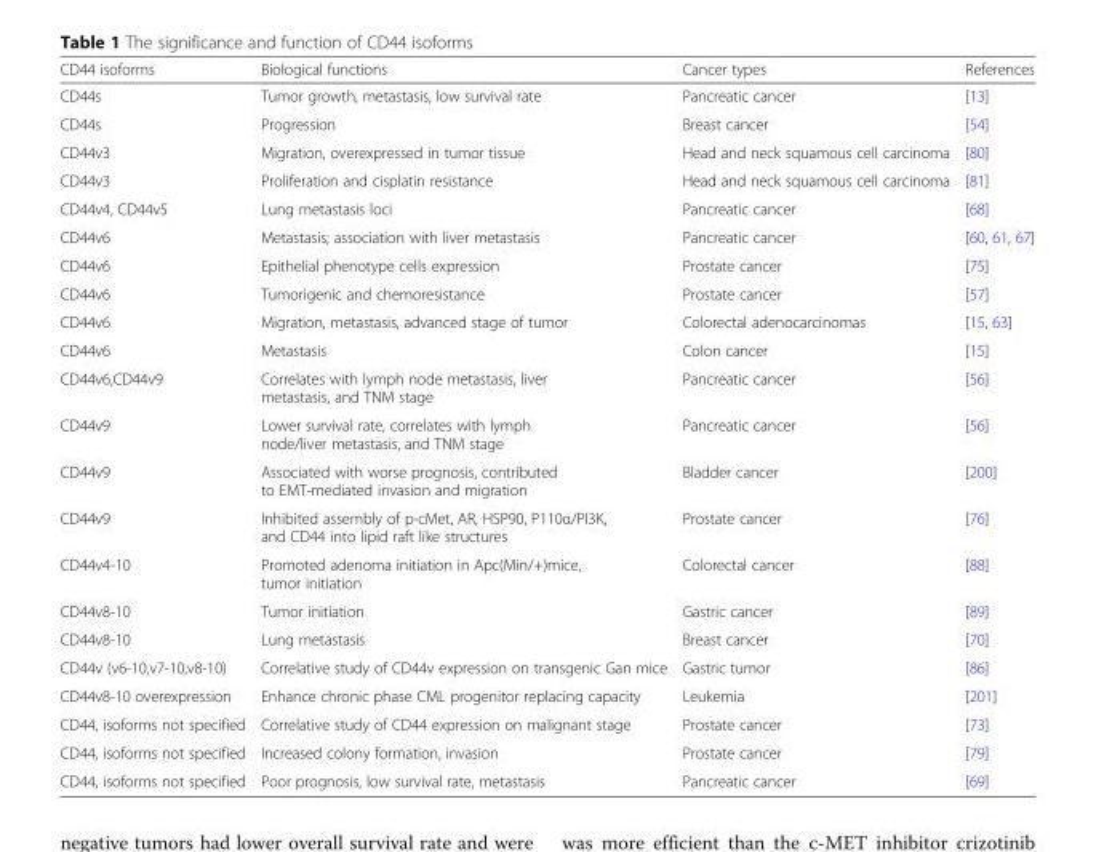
<table><thead><tr><td>CD44 isoforms</td><td>Biological functions</td><td>Cancer types</td><td>References</td></tr></thead><tbody><tr><td>CD44s</td><td>Tumor growth, metastasis, low survival rate</td><td>Pancreatic cancer</td><td>[13]</td></tr><tr><td>CD44s</td><td>Progression</td><td>Breast cancer</td><td>[54]</td></tr><tr><td>CD44v3</td><td>Migration, overexpressed in tumor tissue</td><td>Head and neck squamous cell carcinoma</td><td>[80]</td></tr><tr><td>CD44v3</td><td>Proliferation and cisplatin resistance</td><td>Head and neck squamous cell carcinoma</td><td>[81]</td></tr><tr><td>CD44v4, CD44v5</td><td>Lung metastasis loci</td><td>Pancreatic cancer</td><td>[68]</td></tr><tr><td>CD44v6</td><td>Metastasis; association with liver metastasis</td><td>Pancreatic cancer</td><td>[60, 61, 67]</td></tr><tr><td>CD44v6</td><td>Epithelial phenotype cells expression</td><td>Prostate cancer</td><td>[75]</td></tr><tr><td>CD44v6</td><td>Tumorigenic and chemoresistance</td><td>Prostate cancer</td><td>[57]</td></tr><tr><td>CD44v6</td><td>Migration, metastasis, advanced stage of tumor</td><td>Colorectal adenocarcinomas</td><td>[15, 63]</td></tr><tr><td>CD44v6</td><td>Metastasis</td><td>Colon cancer</td><td>[15]</td></tr><tr><td>CD44v6,CD44v9</td><td>Correlates with lymph node metastasis, liver metastasis, and TNM stage</td><td>Pancreatic cancer</td><td>[56]</td></tr><tr><td>CD44v9</td><td>Lower survival rate, correlates with lymph node/liver metastasis, and TNM stage</td><td>Pancreatic cancer</td><td>[56]</td></tr><tr><td>CD44v9</td><td>Associated with worse prognosis, contributed to EMT-mediated invasion and migration</td><td>Bladder cancer</td><td>[200]</td></tr><tr><td>CD44v9</td><td>Inhibited assembly of p-cMet, AR, HSP90, P110α/PI3K, and CD44 into lipid raft like structures</td><td>Prostate cancer</td><td>[76]</td></tr><tr><td>CD44v4-10</td><td>Promoted adenoma initiation in Apc(Min/+)mice, tumor initiation</td><td>Colorectal cancer</td><td>[88]</td></tr><tr><td>CD44v8-10</td><td>Tumor initiation</td><td>Gastric cancer</td><td>[89]</td></tr><tr><td>CD44v8-10</td><td>Lung metastasis</td><td>Breast cancer</td><td>[70]</td></tr><tr><td>CD44v (v6-10,v7-10,v8-10)</td><td>Correlative study of CD44v expression on transgenic Gan mice</td><td>Gastric tumor</td><td>[86]</td></tr><tr><td>CD44v8-10 overexpression</td><td>Enhance chronic phase CML progenitor replacing capacity</td><td>Leukemia</td><td>[201]</td></tr><tr><td>CD44, isoforms not specified</td><td>Correlative study of CD44 expression on malignant stage</td><td>Prostate cancer</td><td>[73]</td></tr><tr><td>CD44, isoforms not specified</td><td>Increased colony formation, invasion</td><td>Prostate cancer</td><td>[79]</td></tr><tr><td>CD44, isoforms not specified</td><td>Poor prognosis, low survival rate, metastasis</td><td>Pancreatic cancer</td><td>[69]</td></tr></tbody></table>